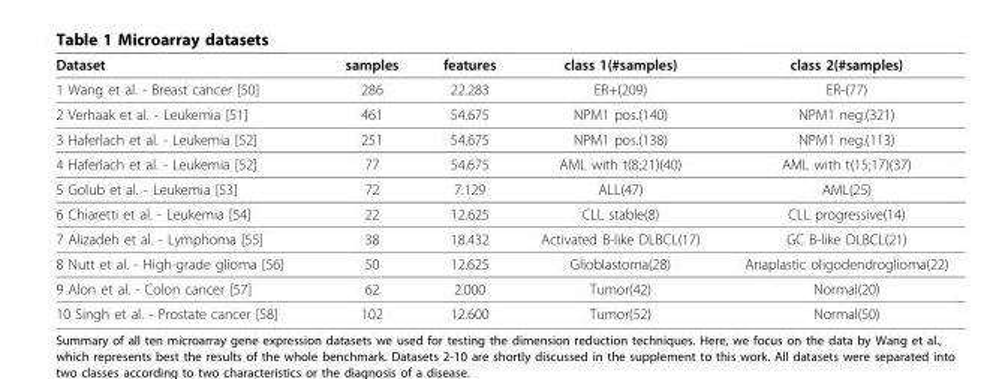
<table><thead><tr><td>Dataset</td><td>samples</td><td>features</td><td>class 1(#samples)</td><td>class 2(#samples)</td></tr></thead><tbody><tr><td>1 Wang et al. - Breast cancer [50]</td><td>286</td><td>22.283</td><td>ER+(209)</td><td>ER-(77)</td></tr><tr><td>2 Verhaak et al. - Leukemia [51]</td><td>461</td><td>54.675</td><td>NPM1 pos.(140)</td><td>NPM1 neg.(321)</td></tr><tr><td>3 Haferlach et al. - Leukemia [52]</td><td>251</td><td>54.675</td><td>NPM1 pos.(138)</td><td>NPM1 neg.(113)</td></tr><tr><td>4 Haferlach et al. - Leukemia [52]</td><td>77</td><td>54.675</td><td>AML with t(8;21)(40)</td><td>AML with t(15;17)(37)</td></tr><tr><td>5 Golub et al. - Leukemia [53]</td><td>72</td><td>7.129</td><td>ALL(47)</td><td>AML(25)</td></tr><tr><td>6 Chiaretti et al. - Leukemia [54]</td><td>22</td><td>12.625</td><td>CLL stable(8)</td><td>CLL progressive(14)</td></tr><tr><td>7 Alizadeh et al. - Lymphoma [55]</td><td>38</td><td>18.432</td><td>Activated B-like DLBCL(17)</td><td>GC B-like DLBCL(21)</td></tr><tr><td>8 Nutt et al. - High-grade glioma [56]</td><td>50</td><td>12.625</td><td>Glioblastoma(28)</td><td>Anaplastic oligodendroglioma(22)</td></tr><tr><td>9 Alon et al. - Colon cancer [57]</td><td>62</td><td>2.000</td><td>Tumor(42)</td><td>Normal(20)</td></tr><tr><td>10 Singh et al. - Prostate cancer [58]</td><td>102</td><td>12.600</td><td>Tumor(52)</td><td>Normal(50)</td></tr></tbody></table>